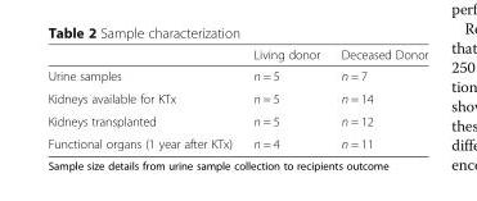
<table><thead><tr><td></td><td>Living donor</td><td>Deceased Donor</td></tr></thead><tbody><tr><td>Urine samples</td><td>n = 5</td><td>n = 7</td></tr><tr><td>Kidneys available for KTx</td><td>n = 5</td><td>n = 14</td></tr><tr><td>Kidneys transplanted</td><td>n = 5</td><td>n = 12</td></tr><tr><td>Functional organs (1 year after KTx)</td><td>n = 4</td><td>n = 11</td></tr></tbody></table>